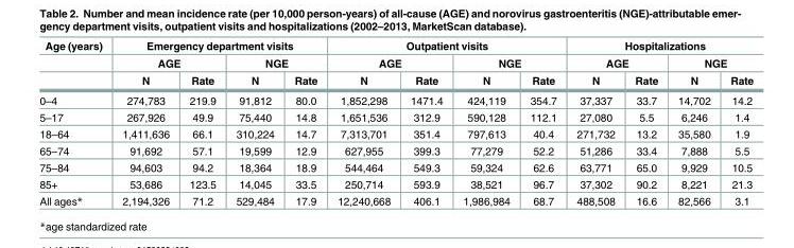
<table><thead><tr><td rowspan="3">Age (years)</td><td colspan="4">Emergency department visits</td><td colspan="4">Outpatient visits</td><td colspan="4">Hospitalizations</td></tr><tr><td colspan="2">AGE</td><td colspan="2">NGE</td><td colspan="2">AGE</td><td colspan="2">NGE</td><td colspan="2">AGE</td><td colspan="2">NGE</td></tr><tr><td>N</td><td>Rate</td><td>N</td><td>Rate</td><td>N</td><td>Rate</td><td>N</td><td>Rate</td><td>N</td><td>Rate</td><td>N</td><td>Rate</td></tr></thead><tbody><tr><td>0–4</td><td>274,783</td><td>219.9</td><td>91,812</td><td>80.0</td><td>1,852,298</td><td>1471.4</td><td>424,119</td><td>354.7</td><td>37,337</td><td>33.7</td><td>14,702</td><td>14.2</td></tr><tr><td>5–17</td><td>267,926</td><td>49.9</td><td>75,440</td><td>14.8</td><td>1,651,536</td><td>312.9</td><td>590,128</td><td>112.1</td><td>27,080</td><td>5.5</td><td>6,246</td><td>1.4</td></tr><tr><td>18–64</td><td>1,411,636</td><td>66.1</td><td>310,224</td><td>14.7</td><td>7,313,701</td><td>351.4</td><td>797,613</td><td>40.4</td><td>271,732</td><td>13.2</td><td>35,580</td><td>1.9</td></tr><tr><td>65–74</td><td>91,692</td><td>57.1</td><td>19,599</td><td>12.9</td><td>627,955</td><td>399.3</td><td>77,279</td><td>52.2</td><td>51,286</td><td>33.4</td><td>7,888</td><td>5.5</td></tr><tr><td>75–84</td><td>94,603</td><td>94.2</td><td>18,364</td><td>18.9</td><td>544,464</td><td>549.3</td><td>59,324</td><td>62.6</td><td>63,771</td><td>65.0</td><td>9,929</td><td>10.5</td></tr><tr><td>85+</td><td>53,686</td><td>123.5</td><td>14,045</td><td>33.5</td><td>250,714</td><td>593.9</td><td>38,521</td><td>96.7</td><td>37,302</td><td>90.2</td><td>8,221</td><td>21.3</td></tr><tr><td>All ages*</td><td>2,194,326</td><td>71.2</td><td>529,484</td><td>17.9</td><td>12,240,668</td><td>406.1</td><td>1,986,984</td><td>68.7</td><td>488,508</td><td>16.6</td><td>82,566</td><td>3.1</td></tr></tbody></table>